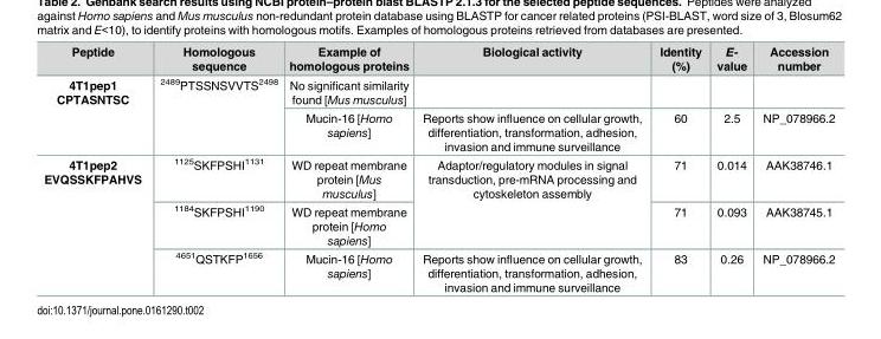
<table><thead><tr><td>Peptide</td><td>Homologous sequence</td><td>Example of homologous proteins</td><td>Biological activity</td><td>Identity (%)</td><td>E- value</td><td>Accession number</td></tr></thead><tbody><tr><td rowspan="2">4T1pep1 CPTASNTSC</td><td rowspan="2"><sup>2489</sup>PTSSNSVVTS<sup>2498</sup></td><td>No significant similarity found [Mus musculus]</td><td></td><td></td><td></td><td></td></tr><tr><td>Mucin-16 [Homo sapiens]</td><td>Reports show influence on cellular growth, differentiation, transformation, adhesion, invasion and immune surveillance</td><td>60</td><td>2.5</td><td>NP_078966.2</td></tr><tr><td rowspan="3">4T1pep2 EVQSSKFPAHVS</td><td><sup>1125</sup>SKFPSHI<sup>1131</sup></td><td>WD repeat membrane protein [Mus musculus]</td><td rowspan="2">Adaptor/regulatory modules in signal transduction, pre-mRNA processing and cytoskeleton assembly</td><td>71</td><td>0.014</td><td>AAK38746.1</td></tr><tr><td><sup>1184</sup>SKFPSHI<sup>1190</sup></td><td>WD repeat membrane protein [Homo sapiens]</td><td>71</td><td>0.093</td><td>AAK38745.1</td></tr><tr><td><sup>4651</sup>QSTKFP<sup>1656</sup></td><td>Mucin-16 [Homo sapiens]</td><td>Reports show influence on cellular growth, differentiation, transformation, adhesion, invasion and immune surveillance</td><td>83</td><td>0.26</td><td>NP_078966.2</td></tr></tbody></table>